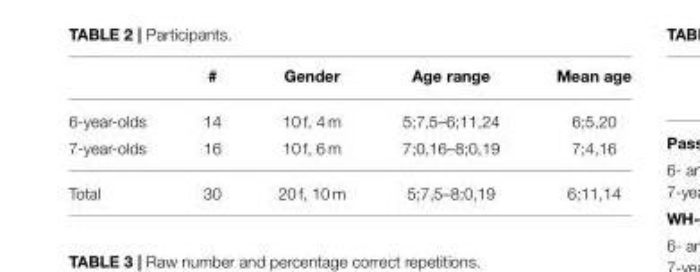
<table><thead><tr><td></td><td>#</td><td>Gender</td><td>Age range</td><td>Mean age</td></tr></thead><tbody><tr><td>6-year-olds</td><td>14</td><td>10 f, 4 m</td><td>5;7,5–6;11,24</td><td>6;5,20</td></tr><tr><td>7-year-olds</td><td>16</td><td>10 f, 6 m</td><td>7;0,16–8;0,19</td><td>7;4,16</td></tr><tr><td>Total</td><td>30</td><td>20 f, 10 m</td><td>5;7,5–8;0,19</td><td>6;11,14</td></tr></tbody></table>